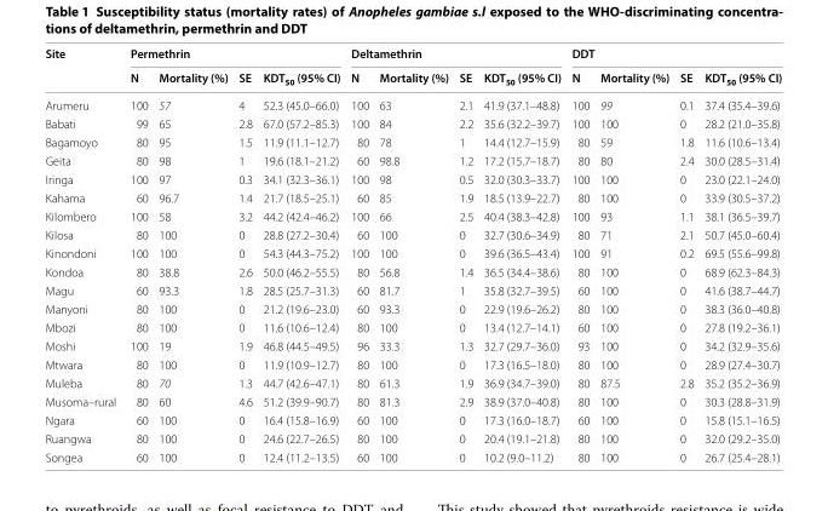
<table><thead><tr><td rowspan="2">Site</td><td colspan="4">Permethrin</td><td colspan="4">Deltamethrin</td><td colspan="4">DDT</td></tr><tr><td>N</td><td>Mortality (%)</td><td>SE</td><td>KDT<sub>50</sub> (95% CI)</td><td>N</td><td>Mortality (%)</td><td>SE</td><td>KDT<sub>50</sub> (95% CI)</td><td>N</td><td>Mortality (%)</td><td>SE</td><td>KDT<sub>50</sub> (95% CI)</td></tr></thead><tbody><tr><td>Arumeru</td><td>100</td><td>57</td><td>4</td><td>52.3 (45.0–66.0)</td><td>100</td><td>63</td><td>2.1</td><td>41.9 (37.1–48.8)</td><td>100</td><td>99</td><td>0.1</td><td>37.4 (35.4–39.6)</td></tr><tr><td>Babati</td><td>99</td><td>65</td><td>2.8</td><td>67.0 (57.2–85.3)</td><td>100</td><td>84</td><td>2.2</td><td>35.6 (32.2–39.7)</td><td>100</td><td>100</td><td>0</td><td>28.2 (21.0–35.8)</td></tr><tr><td>Bagamoyo</td><td>80</td><td>95</td><td>1.5</td><td>11.9 (11.1–12.7)</td><td>80</td><td>78</td><td>1</td><td>14.4 (12.7–15.9)</td><td>80</td><td>59</td><td>1.8</td><td>11.6 (10.6–13.4)</td></tr><tr><td>Geita</td><td>80</td><td>98</td><td>1</td><td>19.6 (18.1–21.2)</td><td>60</td><td>98.8</td><td>1.2</td><td>17.2 (15.7–18.7)</td><td>80</td><td>80</td><td>2.4</td><td>30.0 (28.5–31.4)</td></tr><tr><td>Iringa</td><td>100</td><td>97</td><td>0.3</td><td>34.1 (32.3–36.1)</td><td>100</td><td>98</td><td>0.5</td><td>32.0 (30.3–33.7)</td><td>100</td><td>100</td><td>0</td><td>23.0 (22.1–24.0)</td></tr><tr><td>Kahama</td><td>60</td><td>96.7</td><td>1.4</td><td>21.7 (18.5–25.1)</td><td>60</td><td>85</td><td>1.9</td><td>18.5 (13.9–22.7)</td><td>80</td><td>100</td><td>0</td><td>33.9 (30.5–37.2)</td></tr><tr><td>Kilombero</td><td>100</td><td>58</td><td>3.2</td><td>44.2 (42.4–46.2)</td><td>100</td><td>66</td><td>2.5</td><td>40.4 (38.3–42.8)</td><td>100</td><td>93</td><td>1.1</td><td>38.1 (36.5–39.7)</td></tr><tr><td>Kilosa</td><td>80</td><td>100</td><td>0</td><td>28.8 (27.2–30.4)</td><td>60</td><td>100</td><td>0</td><td>32.7 (30.6–34.9)</td><td>80</td><td>71</td><td>2.1</td><td>50.7 (45.0–60.4)</td></tr><tr><td>Kinondoni</td><td>100</td><td>100</td><td>0</td><td>54.3 (44.3–75.2)</td><td>100</td><td>100</td><td>0</td><td>39.6 (36.5–43.4)</td><td>100</td><td>91</td><td>0.2</td><td>69.5 (55.6–99.8)</td></tr><tr><td>Kondoa</td><td>80</td><td>38.8</td><td>2.6</td><td>50.0 (46.2–55.5)</td><td>80</td><td>56.8</td><td>1.4</td><td>36.5 (34.4–38.6)</td><td>80</td><td>100</td><td>0</td><td>68.9 (62.3–84.3)</td></tr><tr><td>Magu</td><td>60</td><td>93.3</td><td>1.8</td><td>28.5 (25.7–31.3)</td><td>60</td><td>81.7</td><td>1</td><td>35.8 (32.7–39.5)</td><td>60</td><td>100</td><td>0</td><td>41.6 (38.7–44.7)</td></tr><tr><td>Manyoni</td><td>80</td><td>100</td><td>0</td><td>21.2 (19.6–23.0)</td><td>60</td><td>93.3</td><td>0</td><td>22.9 (19.6–26.2)</td><td>80</td><td>100</td><td>0</td><td>38.3 (36.0–40.8)</td></tr><tr><td>Mbozi</td><td>80</td><td>100</td><td>0</td><td>11.6 (10.6–12.4)</td><td>80</td><td>100</td><td>0</td><td>13.4 (12.7–14.1)</td><td>60</td><td>100</td><td>0</td><td>27.8 (19.2–36.1)</td></tr><tr><td>Moshi</td><td>100</td><td>19</td><td>1.9</td><td>46.8 (44.5–49.5)</td><td>96</td><td>33.3</td><td>1.3</td><td>32.7 (29.7–36.0)</td><td>93</td><td>100</td><td>0</td><td>34.2 (32.9–35.6)</td></tr><tr><td>Mtwara</td><td>80</td><td>100</td><td>0</td><td>11.9 (10.9–12.7)</td><td>80</td><td>100</td><td>0</td><td>17.3 (16.5–18.0)</td><td>80</td><td>100</td><td>0</td><td>28.9 (27.4–30.7)</td></tr><tr><td>Muleba</td><td>80</td><td>70</td><td>1.3</td><td>44.7 (42.6–47.1)</td><td>80</td><td>61.3</td><td>1.9</td><td>36.9 (34.7–39.0)</td><td>80</td><td>87.5</td><td>2.8</td><td>35.2 (35.2–36.9)</td></tr><tr><td>Musoma–rural</td><td>80</td><td>60</td><td>4.6</td><td>51.2 (39.9–90.7)</td><td>80</td><td>81.3</td><td>2.9</td><td>38.9 (37.0–40.8)</td><td>80</td><td>100</td><td>0</td><td>30.3 (28.8–31.9)</td></tr><tr><td>Ngara</td><td>60</td><td>100</td><td>0</td><td>16.4 (15.8–16.9)</td><td>60</td><td>100</td><td>0</td><td>17.3 (16.0–18.7)</td><td>60</td><td>100</td><td>0</td><td>15.8 (15.1–16.5)</td></tr><tr><td>Ruangwa</td><td>80</td><td>100</td><td>0</td><td>24.6 (22.7–26.5)</td><td>80</td><td>100</td><td>0</td><td>20.4 (19.1–21.8)</td><td>80</td><td>100</td><td>0</td><td>32.0 (29.2–35.0)</td></tr><tr><td>Songea</td><td>60</td><td>100</td><td>0</td><td>12.4 (11.2–13.5)</td><td>60</td><td>100</td><td>0</td><td>10.2 (9.0–11.2)</td><td>80</td><td>100</td><td>0</td><td>26.7 (25.4–28.1)</td></tr></tbody></table>